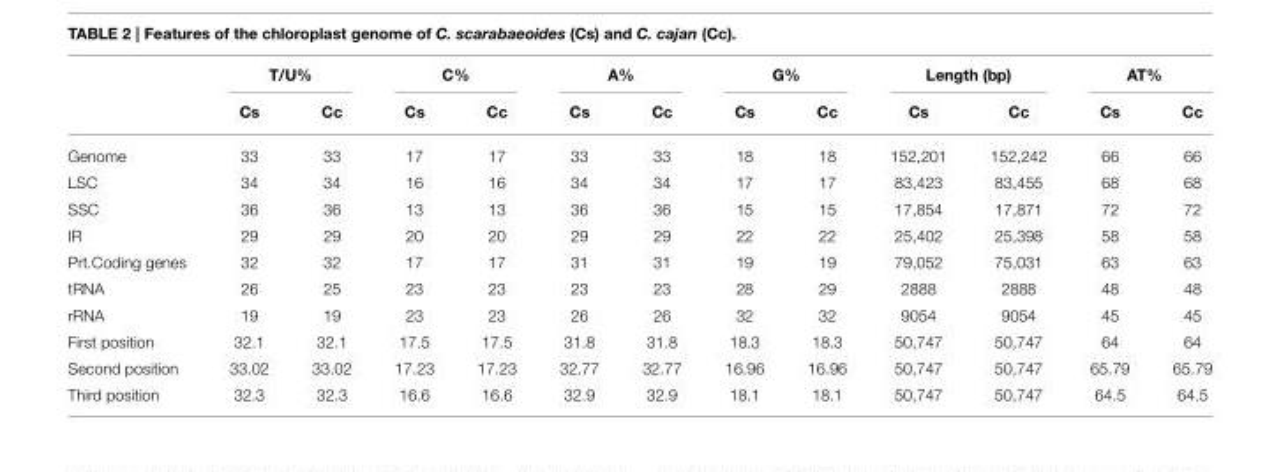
<table><thead><tr><td rowspan="2"></td><td colspan="2">T/U%</td><td colspan="2">C%</td><td colspan="2">A%</td><td colspan="2">G%</td><td colspan="2">Length (bp)</td><td colspan="2">AT%</td></tr><tr><td>Cs</td><td>Cc</td><td>Cs</td><td>Cc</td><td>Cs</td><td>Cc</td><td>Cs</td><td>Cc</td><td>Cs</td><td>Cc</td><td>Cs</td><td>Cc</td></tr></thead><tbody><tr><td>Genome</td><td>33</td><td>33</td><td>17</td><td>17</td><td>33</td><td>33</td><td>18</td><td>18</td><td>152,201</td><td>152,242</td><td>66</td><td>66</td></tr><tr><td>LSC</td><td>34</td><td>34</td><td>16</td><td>16</td><td>34</td><td>34</td><td>17</td><td>17</td><td>83,423</td><td>83,455</td><td>68</td><td>68</td></tr><tr><td>SSC</td><td>36</td><td>36</td><td>13</td><td>13</td><td>36</td><td>36</td><td>15</td><td>15</td><td>17,854</td><td>17,871</td><td>72</td><td>72</td></tr><tr><td>IR</td><td>29</td><td>29</td><td>20</td><td>20</td><td>29</td><td>29</td><td>22</td><td>22</td><td>25,402</td><td>25,398</td><td>58</td><td>58</td></tr><tr><td>Prt.Coding genes</td><td>32</td><td>32</td><td>17</td><td>17</td><td>31</td><td>31</td><td>19</td><td>19</td><td>79,052</td><td>75,031</td><td>63</td><td>63</td></tr><tr><td>tRNA</td><td>26</td><td>25</td><td>23</td><td>23</td><td>23</td><td>23</td><td>28</td><td>29</td><td>2888</td><td>2888</td><td>48</td><td>48</td></tr><tr><td>rRNA</td><td>19</td><td>19</td><td>23</td><td>23</td><td>26</td><td>26</td><td>32</td><td>32</td><td>9054</td><td>9054</td><td>45</td><td>45</td></tr><tr><td>First position</td><td>32.1</td><td>32.1</td><td>17.5</td><td>17.5</td><td>31.8</td><td>31.8</td><td>18.3</td><td>18.3</td><td>50,747</td><td>50,747</td><td>64</td><td>64</td></tr><tr><td>Second position</td><td>33.02</td><td>33.02</td><td>17.23</td><td>17.23</td><td>32.77</td><td>32.77</td><td>16.96</td><td>16.96</td><td>50,747</td><td>50,747</td><td>65.79</td><td>65.79</td></tr><tr><td>Third position</td><td>32.3</td><td>32.3</td><td>16.6</td><td>16.6</td><td>32.9</td><td>32.9</td><td>18.1</td><td>18.1</td><td>50,747</td><td>50,747</td><td>64.5</td><td>64.5</td></tr></tbody></table>